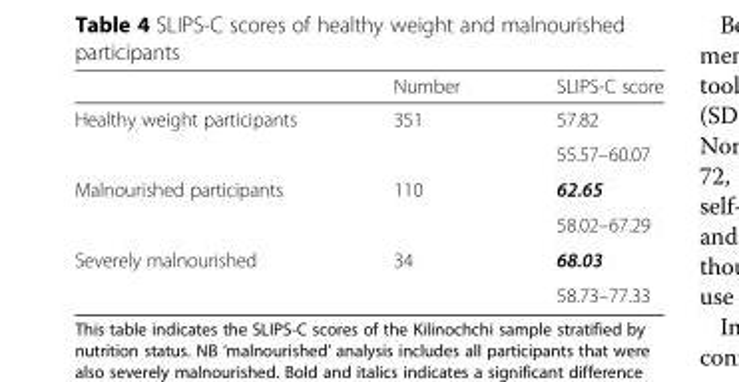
<table><thead><tr><td></td><td>Number</td><td>SLIPS-C score</td></tr></thead><tbody><tr><td rowspan="2">Healthy weight participants</td><td>351</td><td>57.82</td></tr><tr><td></td><td>55.57–60.07</td></tr><tr><td rowspan="2">Malnourished participants</td><td>110</td><td>62.65</td></tr><tr><td></td><td>58.02–67.29</td></tr><tr><td rowspan="2">Severely malnourished</td><td>34</td><td>68.03</td></tr><tr><td></td><td>58.73–77.33</td></tr></tbody></table>